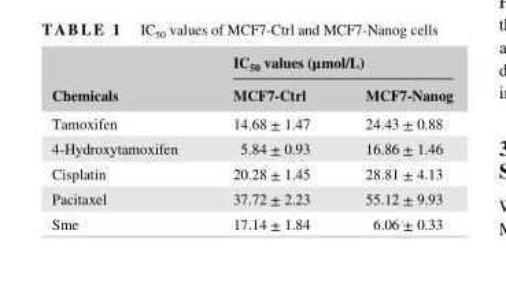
<table><thead><tr><td rowspan="2">Chemicals</td><td colspan="2">IC<sub>50</sub> values (μmol/L)</td></tr><tr><td>MCF7- Ctrl</td><td>MCF7- Nanog</td></tr></thead><tbody><tr><td>Tamoxifen</td><td>14.68 ± 1.47</td><td>24.43 ± 0.88</td></tr><tr><td>4- Hydroxytamoxifen</td><td>5.84 ± 0.93</td><td>16.86 ± 1.46</td></tr><tr><td>Cisplatin</td><td>20.28 ± 1.45</td><td>28.81 ± 4.13</td></tr><tr><td>Pacitaxel</td><td>37.72 ± 2.23</td><td>55.12 ± 9.93</td></tr><tr><td>Sme</td><td>17.14 ± 1.84</td><td>6.06 ± 0.33</td></tr></tbody></table>